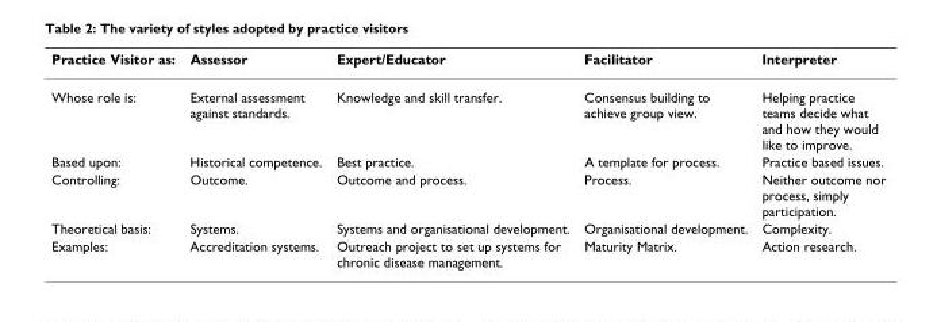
<table><thead><tr><td>Practice Visitor as:</td><td>Assessor</td><td>Expert/Educator</td><td>Facilitator</td><td>Interpreter</td></tr></thead><tbody><tr><td>Whose role is:</td><td>External assessment against standards.</td><td>Knowledge and skill transfer.</td><td>Consensus building to achieve group view.</td><td>Helping practice teams decide what and how they would like to improve.</td></tr><tr><td>Based upon:</td><td>Historical competence.</td><td>Best practice.</td><td>A template for process.</td><td>Practice based issues.</td></tr><tr><td>Controlling:</td><td>Outcome.</td><td>Outcome and process.</td><td>Process.</td><td>Neither outcome nor process, simply participation.</td></tr><tr><td>Theoretical basis:</td><td>Systems.</td><td>Systems and organisational development.</td><td>Organisational development.</td><td>Complexity.</td></tr><tr><td>Examples:</td><td>Accreditation systems.</td><td>Outreach project to set up systems for chronic disease management.</td><td>Maturity Matrix.</td><td>Action research.</td></tr></tbody></table>